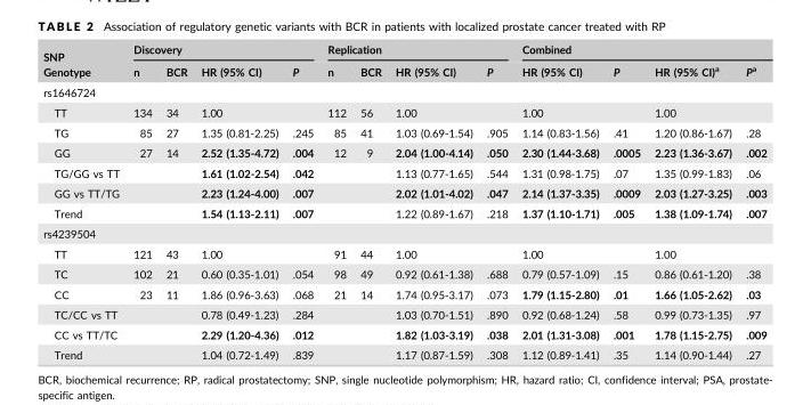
<table><thead><tr><td rowspan="2">SNP Genotype</td><td colspan="4">Discovery</td><td colspan="4">Replication</td><td colspan="4">Combined</td></tr><tr><td>n</td><td>BCR</td><td>HR (95% CI)</td><td>P</td><td>n</td><td>BCR</td><td>HR (95% CI)</td><td>P</td><td>HR (95% CI)</td><td>P</td><td>HR (95% CI)<sup>a</sup></td><td>Pa</td></tr></thead><tbody><tr><td colspan="13">rs1646724</td></tr><tr><td>TT</td><td>134</td><td>34</td><td>1.00</td><td></td><td>112</td><td>56</td><td>1.00</td><td></td><td>1.00</td><td></td><td>1.00</td><td></td></tr><tr><td>TG</td><td>85</td><td>27</td><td>1.35 (0.81-2.25)</td><td>.245</td><td>85</td><td>41</td><td>1.03 (0.69-1.54)</td><td>.905</td><td>1.14 (0.83-1.56)</td><td>.41</td><td>1.20 (0.86-1.67)</td><td>.28</td></tr><tr><td>GG</td><td>27</td><td>14</td><td>2.52 (1.35-4.72)</td><td>.004</td><td>12</td><td>9</td><td>2.04 (1.00-4.14)</td><td>.050</td><td>2.30 (1.44-3.68)</td><td>.0005</td><td>2.23 (1.36-3.67)</td><td>.002</td></tr><tr><td>TG/GG vs TT</td><td></td><td></td><td>1.61 (1.02-2.54)</td><td>.042</td><td></td><td></td><td>1.13 (0.77-1.65)</td><td>.544</td><td>1.31 (0.98-1.75)</td><td>.07</td><td>1.35 (0.99-1.83)</td><td>.06</td></tr><tr><td>GG vs TT/TG</td><td></td><td></td><td>2.23 (1.24-4.00)</td><td>.007</td><td></td><td></td><td>2.02 (1.01-4.02)</td><td>.047</td><td>2.14 (1.37-3.35)</td><td>.0009</td><td>2.03 (1.27-3.25)</td><td>.003</td></tr><tr><td>Trend</td><td></td><td></td><td>1.54 (1.13-2.11)</td><td>.007</td><td></td><td></td><td>1.22 (0.89-1.67)</td><td>.218</td><td>1.37 (1.10-1.71)</td><td>.005</td><td>1.38 (1.09-1.74)</td><td>.007</td></tr><tr><td colspan="13">rs4239504</td></tr><tr><td>TT</td><td>121</td><td>43</td><td>1.00</td><td></td><td>91</td><td>44</td><td>1.00</td><td></td><td>1.00</td><td></td><td>1.00</td><td></td></tr><tr><td>TC</td><td>102</td><td>21</td><td>0.60 (0.35-1.01)</td><td>.054</td><td>98</td><td>49</td><td>0.92 (0.61-1.38)</td><td>.688</td><td>0.79 (0.57-1.09)</td><td>.15</td><td>0.86 (0.61-1.20)</td><td>.38</td></tr><tr><td>CC</td><td>23</td><td>11</td><td>1.86 (0.96-3.63)</td><td>.068</td><td>21</td><td>14</td><td>1.74 (0.95-3.17)</td><td>.073</td><td>1.79 (1.15-2.80)</td><td>.01</td><td>1.66 (1.05-2.62)</td><td>.03</td></tr><tr><td>TC/CC vs TT</td><td></td><td></td><td>0.78 (0.49-1.23)</td><td>.284</td><td></td><td></td><td>1.03 (0.70-1.51)</td><td>.890</td><td>0.92 (0.68-1.24)</td><td>.58</td><td>0.99 (0.73-1.35)</td><td>.97</td></tr><tr><td>CC vs TT/TC</td><td></td><td></td><td>2.29 (1.20-4.36)</td><td>.012</td><td></td><td></td><td>1.82 (1.03-3.19)</td><td>.038</td><td>2.01 (1.31-3.08)</td><td>.001</td><td>1.78 (1.15-2.75)</td><td>.009</td></tr><tr><td>Trend</td><td></td><td></td><td>1.04 (0.72-1.49)</td><td>.839</td><td></td><td></td><td>1.17 (0.87-1.59)</td><td>.308</td><td>1.12 (0.89-1.41)</td><td>.35</td><td>1.14 (0.90-1.44)</td><td>.27</td></tr></tbody></table>